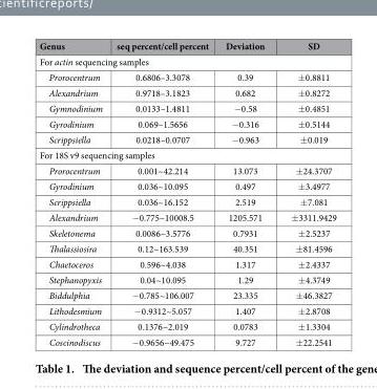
<table><thead><tr><td>Genus</td><td>seq percent/cell percent</td><td>Deviation</td><td>SD</td></tr></thead><tbody><tr><td colspan="4">For actin sequencing samples</td></tr><tr><td>Prorocentrum</td><td>0.6806–3.3078</td><td>0.39</td><td>±0.8811</td></tr><tr><td>Alexandrium</td><td>0.9718–3.1823</td><td>0.682</td><td>±0.8272</td></tr><tr><td>Gymnodinium</td><td>0.0133–1.4811</td><td>−0.58</td><td>±0.4851</td></tr><tr><td>Gyrodinium</td><td>0.069–1.5656</td><td>−0.316</td><td>±0.5144</td></tr><tr><td>Scrippsiella</td><td>0.0218–0.0707</td><td>−0.963</td><td>±0.019</td></tr><tr><td colspan="4">For 18S v9 sequencing samples</td></tr><tr><td>Prorocentrum</td><td>0.001~42.214</td><td>13.073</td><td>±24.3707</td></tr><tr><td>Gyrodinium</td><td>0.036~10.095</td><td>0.497</td><td>±3.4977</td></tr><tr><td>Scrippsiella</td><td>0.036~16.152</td><td>2.519</td><td>±7.081</td></tr><tr><td>Alexandrium</td><td>−0.775~10008.5</td><td>1205.571</td><td>±3311.9429</td></tr><tr><td>Skeletonema</td><td>0.0086~3.5776</td><td>0.7931</td><td>±2.5237</td></tr><tr><td>Thalassiosira</td><td>0.12~163.539</td><td>40.351</td><td>±81.4596</td></tr><tr><td>Chaetoceros</td><td>0.596~4.038</td><td>1.317</td><td>±2.4337</td></tr><tr><td>Stephanopyxis</td><td>0.04~10.095</td><td>1.29</td><td>±4.3749</td></tr><tr><td>Biddulphia</td><td>−0.785~106.007</td><td>23.335</td><td>±46.3827</td></tr><tr><td>Lithodesmium</td><td>−0.9312~5.057</td><td>1.407</td><td>±2.8708</td></tr><tr><td>Cylindrotheca</td><td>0.1376~2.019</td><td>0.0783</td><td>±1.3304</td></tr><tr><td>Coscinodiscus</td><td>−0.9656~49.475</td><td>9.727</td><td>±22.2541</td></tr></tbody></table>